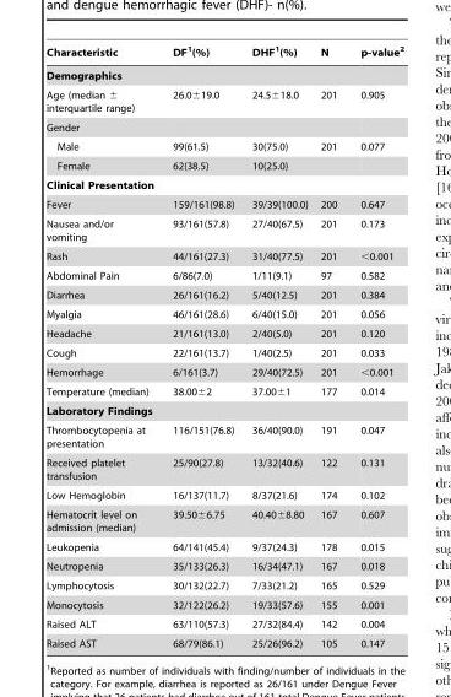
<table><thead><tr><td>Characteristic</td><td>DF<sup>1</sup>(%)</td><td>DHF<sup>1</sup>(%)</td><td>N</td><td>p-value<sup>2</sup></td></tr></thead><tbody><tr><td colspan="5">Demographics</td></tr><tr><td>Age (median ± interquartile range)</td><td>26.0±19.0</td><td>24.5±18.0</td><td>201</td><td>0.905</td></tr><tr><td colspan="5">Gender</td></tr><tr><td>Male</td><td>99(61.5)</td><td>30(75.0)</td><td>201</td><td>0.077</td></tr><tr><td>Female</td><td>62(38.5)</td><td>10(25.0)</td><td></td><td></td></tr><tr><td colspan="5">Clinical Presentation</td></tr><tr><td>Fever</td><td>159/161(98.8)</td><td>39/39(100.0)</td><td>200</td><td>0.647</td></tr><tr><td>Nausea and/or vomiting</td><td>93/161(57.8)</td><td>27/40(67.5)</td><td>201</td><td>0.173</td></tr><tr><td>Rash</td><td>44/161(27.3)</td><td>31/40(77.5)</td><td>201</td><td>&lt;0.001</td></tr><tr><td>Abdominal Pain</td><td>6/86(7.0)</td><td>1/11(9.1)</td><td>97</td><td>0.582</td></tr><tr><td>Diarrhea</td><td>26/161(16.2)</td><td>5/40(12.5)</td><td>201</td><td>0.384</td></tr><tr><td>Myalgia</td><td>46/161(28.6)</td><td>6/40(15.0)</td><td>201</td><td>0.056</td></tr><tr><td>Headache</td><td>21/161(13.0)</td><td>2/40(5.0)</td><td>201</td><td>0.120</td></tr><tr><td>Cough</td><td>22/161(13.7)</td><td>1/40(2.5)</td><td>201</td><td>0.033</td></tr><tr><td>Hemorrhage</td><td>6/161(3.7)</td><td>29/40(72.5)</td><td>201</td><td>&lt;0.001</td></tr><tr><td>Temperature (median)</td><td>38.00±2</td><td>37.00±1</td><td>177</td><td>0.014</td></tr><tr><td colspan="5">Laboratory Findings</td></tr><tr><td>Thrombocytopenia at presentation</td><td>116/151(76.8)</td><td>36/40(90.0)</td><td>191</td><td>0.047</td></tr><tr><td>Received platelet transfusion</td><td>25/90(27.8)</td><td>13/32(40.6)</td><td>122</td><td>0.131</td></tr><tr><td>Low Hemoglobin</td><td>16/137(11.7)</td><td>8/37(21.6)</td><td>174</td><td>0.102</td></tr><tr><td>Hematocrit level on admission (median)</td><td>39.50±6.75</td><td>40.40±8.80</td><td>167</td><td>0.607</td></tr><tr><td>Leukopenia</td><td>64/141(45.4)</td><td>9/37(24.3)</td><td>178</td><td>0.015</td></tr><tr><td>Neutropenia</td><td>35/133(26.3)</td><td>16/34(47.1)</td><td>167</td><td>0.018</td></tr><tr><td>Lymphocytosis</td><td>30/132(22.7)</td><td>7/33(21.2)</td><td>165</td><td>0.529</td></tr><tr><td>Monocytosis</td><td>32/122(26.2)</td><td>19/33(57.6)</td><td>155</td><td>0.001</td></tr><tr><td>Raised ALT</td><td>63/110(57.3)</td><td>27/32(84.4)</td><td>142</td><td>0.004</td></tr><tr><td>Raised AST</td><td>68/79(86.1)</td><td>25/26(96.2)</td><td>105</td><td>0.147</td></tr></tbody></table>